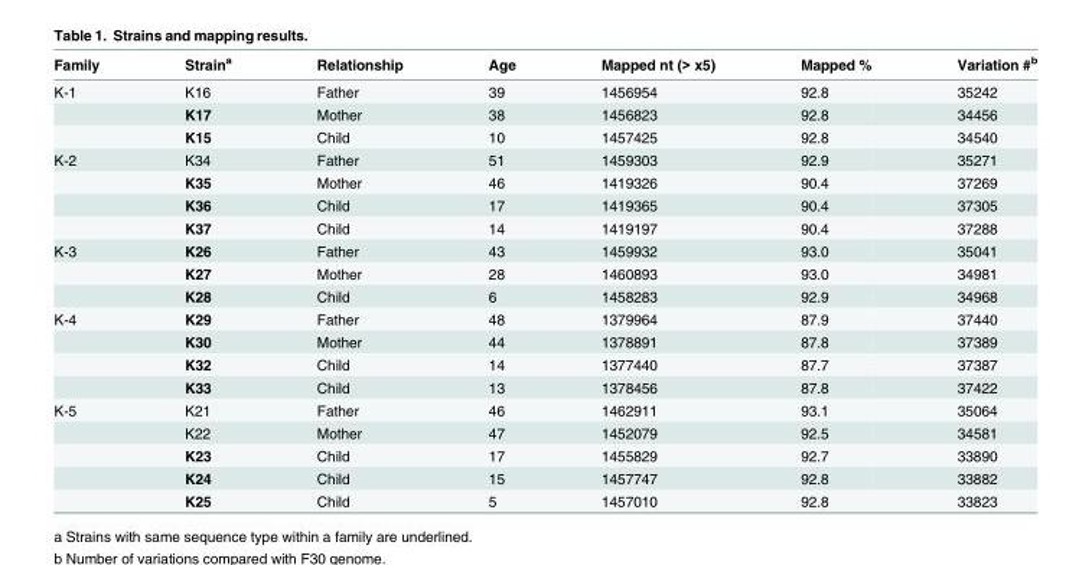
<table><thead><tr><td>Family</td><td>Strain<sup>a</sup></td><td>Relationship</td><td>Age</td><td>Mapped nt (&gt; x5)</td><td>Mapped %</td><td>Variation #<sup>b</sup></td></tr></thead><tbody><tr><td rowspan="3">K-1</td><td>K16</td><td>Father</td><td>39</td><td>1456954</td><td>92.8</td><td>35242</td></tr><tr><td>K17</td><td>Mother</td><td>38</td><td>1456823</td><td>92.8</td><td>34456</td></tr><tr><td>K15</td><td>Child</td><td>10</td><td>1457425</td><td>92.8</td><td>34540</td></tr><tr><td rowspan="4">K-2</td><td>K34</td><td>Father</td><td>51</td><td>1459303</td><td>92.9</td><td>35271</td></tr><tr><td>K35</td><td>Mother</td><td>46</td><td>1419326</td><td>90.4</td><td>37269</td></tr><tr><td>K36</td><td>Child</td><td>17</td><td>1419365</td><td>90.4</td><td>37305</td></tr><tr><td>K37</td><td>Child</td><td>14</td><td>1419197</td><td>90.4</td><td>37288</td></tr><tr><td rowspan="3">K-3</td><td>K26</td><td>Father</td><td>43</td><td>1459932</td><td>93.0</td><td>35041</td></tr><tr><td>K27</td><td>Mother</td><td>28</td><td>1460893</td><td>93.0</td><td>34981</td></tr><tr><td>K28</td><td>Child</td><td>6</td><td>1458283</td><td>92.9</td><td>34968</td></tr><tr><td rowspan="4">K-4</td><td>K29</td><td>Father</td><td>48</td><td>1379964</td><td>87.9</td><td>37440</td></tr><tr><td>K30</td><td>Mother</td><td>44</td><td>1378891</td><td>87.8</td><td>37389</td></tr><tr><td>K32</td><td>Child</td><td>14</td><td>1377440</td><td>87.7</td><td>37387</td></tr><tr><td>K33</td><td>Child</td><td>13</td><td>1378456</td><td>87.8</td><td>37422</td></tr><tr><td rowspan="5">K-5</td><td>K21</td><td>Father</td><td>46</td><td>1462911</td><td>93.1</td><td>35064</td></tr><tr><td>K22</td><td>Mother</td><td>47</td><td>1452079</td><td>92.5</td><td>34581</td></tr><tr><td>K23</td><td>Child</td><td>17</td><td>1455829</td><td>92.7</td><td>33890</td></tr><tr><td>K24</td><td>Child</td><td>15</td><td>1457747</td><td>92.8</td><td>33882</td></tr><tr><td>K25</td><td>Child</td><td>5</td><td>1457010</td><td>92.8</td><td>33823</td></tr></tbody></table>